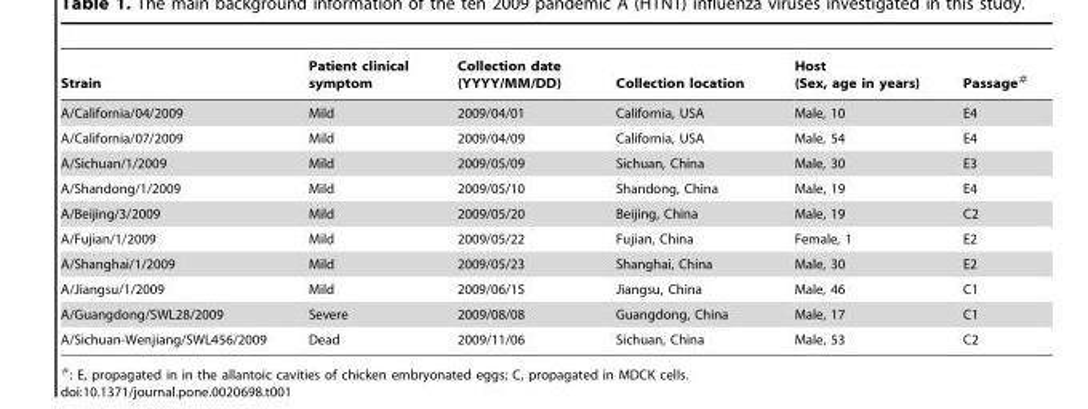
<table><thead><tr><td>Strain</td><td>Patient clinical symptom</td><td>Collection date (YYYY/MM/DD)</td><td>Collection location</td><td>Host (Sex, age in years)</td><td>Passage#</td></tr></thead><tbody><tr><td>A/California/04/2009</td><td>Mild</td><td>2009/04/01</td><td>California, USA</td><td>Male, 10</td><td>E4</td></tr><tr><td>A/California/07/2009</td><td>Mild</td><td>2009/04/09</td><td>California, USA</td><td>Male, 54</td><td>E4</td></tr><tr><td>A/Sichuan/1/2009</td><td>Mild</td><td>2009/05/09</td><td>Sichuan, China</td><td>Male, 30</td><td>E3</td></tr><tr><td>A/Shandong/1/2009</td><td>Mild</td><td>2009/05/10</td><td>Shandong, China</td><td>Male, 19</td><td>E4</td></tr><tr><td>A/Beijing/3/2009</td><td>Mild</td><td>2009/05/20</td><td>Beijing, China</td><td>Male, 19</td><td>C2</td></tr><tr><td>A/Fujian/1/2009</td><td>Mild</td><td>2009/05/22</td><td>Fujian, China</td><td>Female, 1</td><td>E2</td></tr><tr><td>A/Shanghai/1/2009</td><td>Mild</td><td>2009/05/23</td><td>Shanghai, China</td><td>Male, 30</td><td>E2</td></tr><tr><td>A/Jiangsu/1/2009</td><td>Mild</td><td>2009/06/15</td><td>Jiangsu, China</td><td>Male, 46</td><td>C1</td></tr><tr><td>A/Guangdong/SWL28/2009</td><td>Severe</td><td>2009/08/08</td><td>Guangdong, China</td><td>Male, 17</td><td>C1</td></tr><tr><td>A/Sichuan-Wenjiang/SWL456/2009</td><td>Dead</td><td>2009/11/06</td><td>Sichuan, China</td><td>Male, 53</td><td>C2</td></tr></tbody></table>